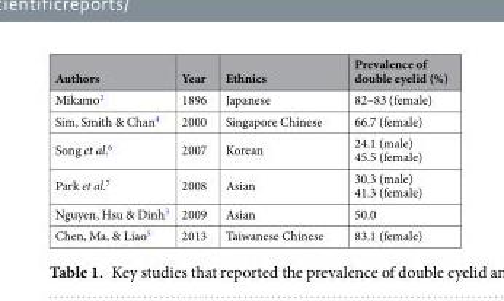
<table><thead><tr><td>Authors</td><td>Year</td><td>Ethnics</td><td>Prevalence of double eyelid (%)</td></tr></thead><tbody><tr><td>Mikamo<sup>2</sup></td><td>1896</td><td>Japanese</td><td>82–83 (female)</td></tr><tr><td>Sim, Smith &amp; Chan<sup>4</sup></td><td>2000</td><td>Singapore Chinese</td><td>66.7 (female)</td></tr><tr><td>Song et al.<sup>6</sup></td><td>2007</td><td>Korean</td><td>24.1 (male) 45.5 (female)</td></tr><tr><td>Park et al.<sup>7</sup></td><td>2008</td><td>Asian</td><td>30.3 (male) 41.3 (female)</td></tr><tr><td>Nguyen, Hsu &amp; Dinh<sup>3</sup></td><td>2009</td><td>Asian</td><td>50.0</td></tr><tr><td>Chen, Ma, &amp; Liao<sup>5</sup></td><td>2013</td><td>Taiwanese Chinese</td><td>83.1 (female)</td></tr></tbody></table>